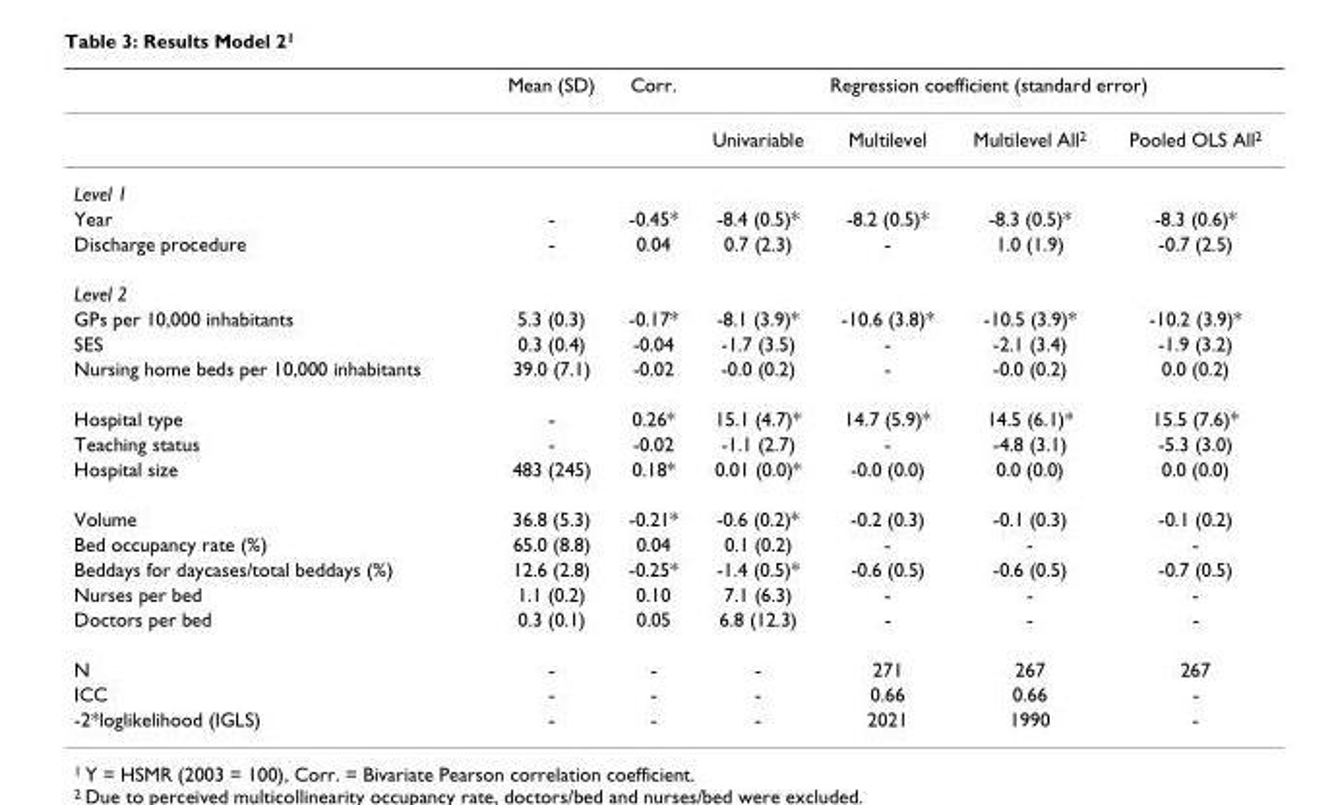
<table><thead><tr><td rowspan="2"></td><td rowspan="2">Mean (SD)</td><td rowspan="2">Corr.</td><td colspan="4">Regression coefficient (standard error)</td></tr><tr><td>Univariable</td><td>Multilevel</td><td>Multilevel All<sup>2</sup></td><td>Pooled OLS All<sup>2</sup></td></tr></thead><tbody><tr><td colspan="7">Level 1</td></tr><tr><td>Year</td><td>-</td><td>-0.45*</td><td>-8.4 (0.5)*</td><td>-8.2 (0.5)*</td><td>-8.3 (0.5)*</td><td>-8.3 (0.6)*</td></tr><tr><td>Discharge procedure</td><td>-</td><td>0.04</td><td>0.7 (2.3)</td><td>-</td><td>1.0 (1.9)</td><td>-0.7 (2.5)</td></tr><tr><td colspan="7">Level 2</td></tr><tr><td>GPs per 10,000 inhabitants</td><td>5.3 (0.3)</td><td>-0.17*</td><td>-8.1 (3.9)*</td><td>-10.6 (3.8)*</td><td>-10.5 (3.9)*</td><td>-10.2 (3.9)*</td></tr><tr><td>SES</td><td>0.3 (0.4)</td><td>-0.04</td><td>-1.7 (3.5)</td><td>-</td><td>-2.1 (3.4)</td><td>-1.9 (3.2)</td></tr><tr><td>Nursing home beds per 10,000 inhabitants</td><td>39.0 (7.1)</td><td>-0.02</td><td>-0.0 (0.2)</td><td>-</td><td>-0.0 (0.2)</td><td>0.0 (0.2)</td></tr><tr><td>Hospital type</td><td>-</td><td>0.26*</td><td>15.1 (4.7)*</td><td>14.7 (5.9)*</td><td>14.5 (6.1)*</td><td>15.5 (7.6)*</td></tr><tr><td>Teaching status</td><td>-</td><td>-0.02</td><td>-1.1 (2.7)</td><td>-</td><td>-4.8 (3.1)</td><td>-5.3 (3.0)</td></tr><tr><td>Hospital size</td><td>483 (245)</td><td>0.18*</td><td>0.01 (0.0)*</td><td>-0.0 (0.0)</td><td>0.0 (0.0)</td><td>0.0 (0.0)</td></tr><tr><td>Volume</td><td>36.8 (5.3)</td><td>-0.21*</td><td>-0.6 (0.2)*</td><td>-0.2 (0.3)</td><td>-0.1 (0.3)</td><td>-0.1 (0.2)</td></tr><tr><td>Bed occupancy rate (%)</td><td>65.0 (8.8)</td><td>0.04</td><td>0.1 (0.2)</td><td>-</td><td>-</td><td>-</td></tr><tr><td>Beddays for daycases/total beddays (%)</td><td>12.6 (2.8)</td><td>-0.25*</td><td>-1.4 (0.5)*</td><td>-0.6 (0.5)</td><td>-0.6 (0.5)</td><td>-0.7 (0.5)</td></tr><tr><td>Nurses per bed</td><td>1.1 (0.2)</td><td>0.10</td><td>7.1 (6.3)</td><td>-</td><td>-</td><td>-</td></tr><tr><td>Doctors per bed</td><td>0.3 (0.1)</td><td>0.05</td><td>6.8 (12.3)</td><td>-</td><td>-</td><td>-</td></tr><tr><td>N</td><td>-</td><td>-</td><td>-</td><td>271</td><td>267</td><td>267</td></tr><tr><td>ICC</td><td>-</td><td>-</td><td>-</td><td>0.66</td><td>0.66</td><td>-</td></tr><tr><td>-2*loglikelihood (IGLS)</td><td>-</td><td>-</td><td>-</td><td>2021</td><td>1990</td><td>-</td></tr></tbody></table>